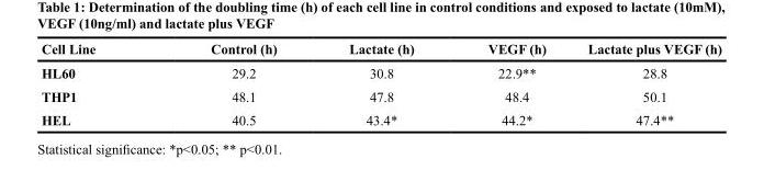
<table><thead><tr><td>Cell Line</td><td>Control (h)</td><td>Lactate (h)</td><td>VEGF (h)</td><td>Lactate plus VEGF (h)</td></tr></thead><tbody><tr><td>HL60</td><td>29.2</td><td>30.8</td><td>22.9**</td><td>28.8</td></tr><tr><td>THP1</td><td>48.1</td><td>47.8</td><td>48.4</td><td>50.1</td></tr><tr><td>HEL</td><td>40.5</td><td>43.4*</td><td>44.2*</td><td>47.4**</td></tr></tbody></table>